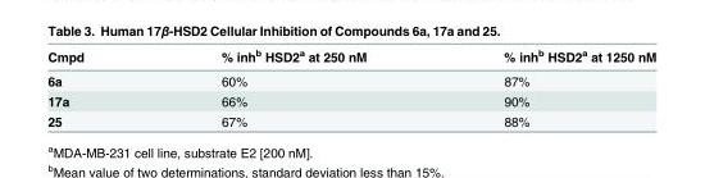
<table><thead><tr><td>Cmpd</td><td>% inh<sup>b</sup> HSD2<sup>a</sup> at 250 nM</td><td>% inh<sup>b</sup> HSD2<sup>a</sup> at 1250 nM</td></tr></thead><tbody><tr><td>6a</td><td>60%</td><td>87%</td></tr><tr><td>17a</td><td>66%</td><td>90%</td></tr><tr><td>25</td><td>67%</td><td>88%</td></tr></tbody></table>